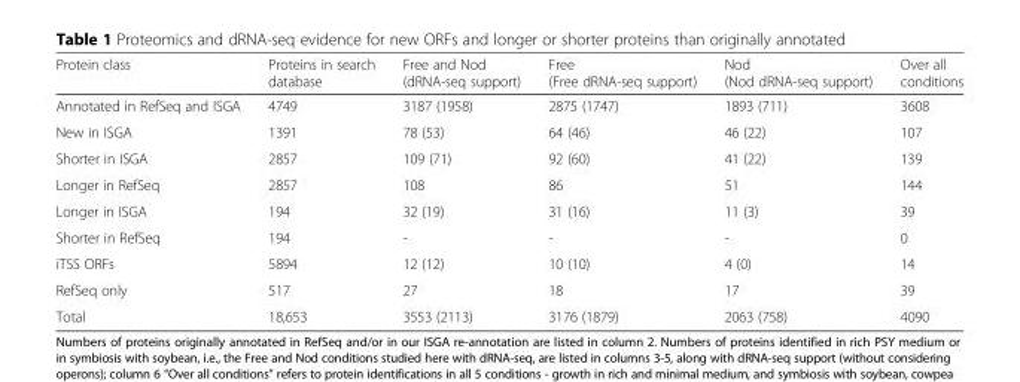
<table><thead><tr><td>Protein class</td><td>Proteins in search database</td><td>Free and Nod (dRNA-seq support)</td><td>Free (Free dRNA-seq support)</td><td>Nod (Nod dRNA-seq support)</td><td>Over all conditions</td></tr></thead><tbody><tr><td>Annotated in RefSeq and ISGA</td><td>4749</td><td>3187 (1958)</td><td>2875 (1747)</td><td>1893 (711)</td><td>3608</td></tr><tr><td>New in ISGA</td><td>1391</td><td>78 (53)</td><td>64 (46)</td><td>46 (22)</td><td>107</td></tr><tr><td>Shorter in ISGA</td><td>2857</td><td>109 (71)</td><td>92 (60)</td><td>41 (22)</td><td>139</td></tr><tr><td>Longer in RefSeq</td><td>2857</td><td>108</td><td>86</td><td>51</td><td>144</td></tr><tr><td>Longer in ISGA</td><td>194</td><td>32 (19)</td><td>31 (16)</td><td>11 (3)</td><td>39</td></tr><tr><td>Shorter in RefSeq</td><td>194</td><td>-</td><td>-</td><td>-</td><td>0</td></tr><tr><td>iTSS ORFs</td><td>5894</td><td>12 (12)</td><td>10 (10)</td><td>4 (0)</td><td>14</td></tr><tr><td>RefSeq only</td><td>517</td><td>27</td><td>18</td><td>17</td><td>39</td></tr><tr><td>Total</td><td>18,653</td><td>3553 (2113)</td><td>3176 (1879)</td><td>2063 (758)</td><td>4090</td></tr></tbody></table>